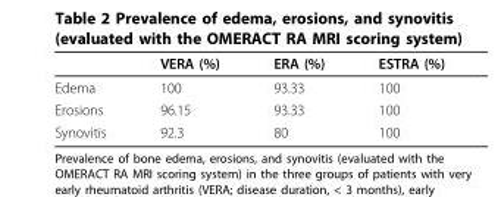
<table><thead><tr><td></td><td>VERA (%)</td><td>ERA (%)</td><td>ESTRA (%)</td></tr></thead><tbody><tr><td>Edema</td><td>100</td><td>93.33</td><td>100</td></tr><tr><td>Erosions</td><td>96.15</td><td>93.33</td><td>100</td></tr><tr><td>Synovitis</td><td>92.3</td><td>80</td><td>100</td></tr></tbody></table>